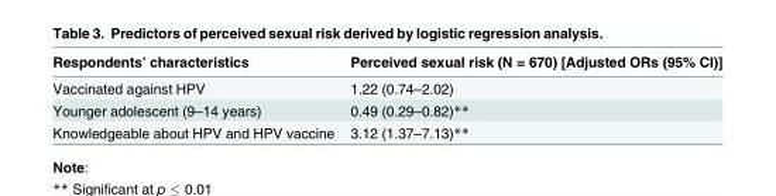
<table><thead><tr><td>Respondents’ characteristics</td><td>Perceived sexual risk (N = 670) [Adjusted ORs (95% CI)]</td></tr></thead><tbody><tr><td>Vaccinated against HPV</td><td>1.22 (0.74–2.02)</td></tr><tr><td>Younger adolescent (9–14 years)</td><td>0.49 (0.29–0.82)**</td></tr><tr><td>Knowledgeable about HPV and HPV vaccine</td><td>3.12 (1.37–7.13)**</td></tr></tbody></table>